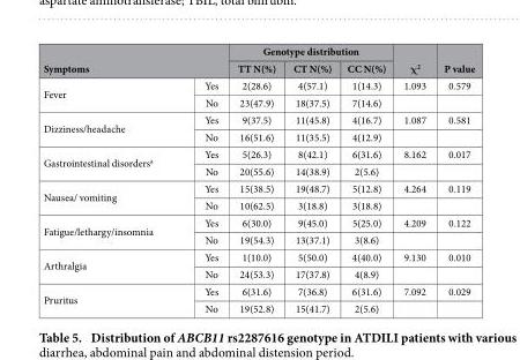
<table><thead><tr><td></td><td></td><td colspan="3">Genotype distribution</td><td rowspan="2">χ<sup>2</sup></td><td rowspan="2">P value</td></tr><tr><td colspan="2">Symptoms</td><td>TT N(%)</td><td>CT N(%)</td><td>CC N(%)</td></tr></thead><tbody><tr><td rowspan="2">Fever</td><td>Yes</td><td>2(28.6)</td><td>4(57.1)</td><td>1(14.3)</td><td>1.093</td><td>0.579</td></tr><tr><td>No</td><td>23(47.9)</td><td>18(37.5)</td><td>7(14.6)</td><td></td><td></td></tr><tr><td rowspan="2">Dizziness/headache</td><td>Yes</td><td>9(37.5)</td><td>11(45.8)</td><td>4(16.7)</td><td>1.087</td><td>0.581</td></tr><tr><td>No</td><td>16(51.6)</td><td>11(35.5)</td><td>4(12.9)</td><td></td><td></td></tr><tr><td rowspan="2">Gastrointestinal disorders<sup>a</sup></td><td>Yes</td><td>5(26.3)</td><td>8(42.1)</td><td>6(31.6)</td><td>8.162</td><td>0.017</td></tr><tr><td>No</td><td>20(55.6)</td><td>14(38.9)</td><td>2(5.6)</td><td></td><td></td></tr><tr><td rowspan="2">Nausea/ vomiting</td><td>Yes</td><td>15(38.5)</td><td>19(48.7)</td><td>5(12.8)</td><td>4.264</td><td>0.119</td></tr><tr><td>No</td><td>10(62.5)</td><td>3(18.8)</td><td>3(18.8)</td><td></td><td></td></tr><tr><td rowspan="2">Fatigue/lethargy/insomnia</td><td>Yes</td><td>6(30.0)</td><td>9(45.0)</td><td>5(25.0)</td><td>4.209</td><td>0.122</td></tr><tr><td>No</td><td>19(54.3)</td><td>13(37.1)</td><td>3(8.6)</td><td></td><td></td></tr><tr><td rowspan="2">Arthralgia</td><td>Yes</td><td>1(10.0)</td><td>5(50.0)</td><td>4(40.0)</td><td>9.130</td><td>0.010</td></tr><tr><td>No</td><td>24(53.3)</td><td>17(37.8)</td><td>4(8.9)</td><td></td><td></td></tr><tr><td rowspan="2">Pruritus</td><td>Yes</td><td>6(31.6)</td><td>7(36.8)</td><td>6(31.6)</td><td>7.092</td><td>0.029</td></tr><tr><td>No</td><td>19(52.8)</td><td>15(41.7)</td><td>2(5.6)</td><td></td><td></td></tr></tbody></table>